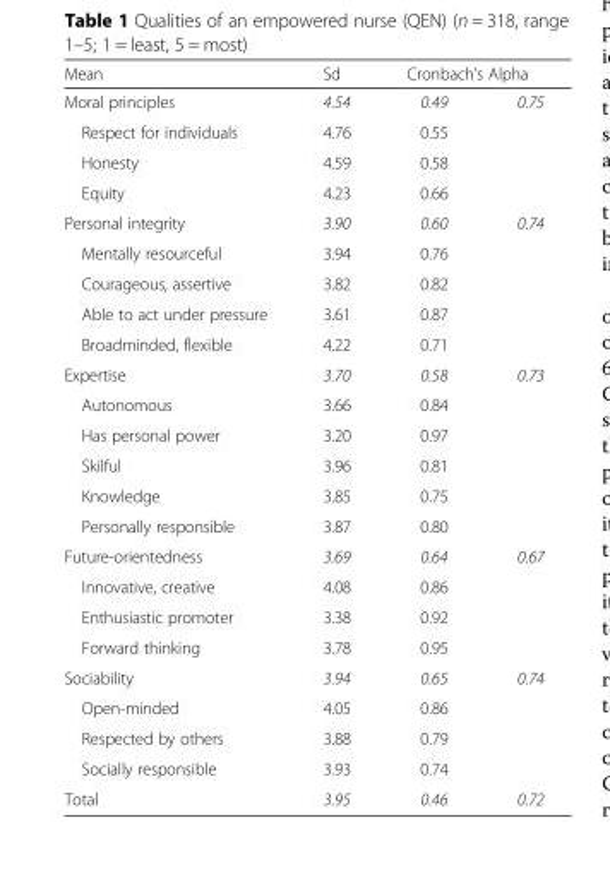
<table><thead><tr><td rowspan="2">Mean Moral principles</td><td rowspan="2">Sd 4.54</td><td colspan="2">Cronbach’s Alpha</td></tr><tr><td>0.49</td><td>0.75</td></tr></thead><tbody><tr><td>Respect for individuals</td><td>4.76</td><td>0.55</td><td></td></tr><tr><td>Honesty</td><td>4.59</td><td>0.58</td><td></td></tr><tr><td>Equity</td><td>4.23</td><td>0.66</td><td></td></tr><tr><td>Personal integrity</td><td>3.90</td><td>0.60</td><td>0.74</td></tr><tr><td>Mentally resourceful</td><td>3.94</td><td>0.76</td><td></td></tr><tr><td>Courageous, assertive</td><td>3.82</td><td>0.82</td><td></td></tr><tr><td>Able to act under pressure</td><td>3.61</td><td>0.87</td><td></td></tr><tr><td>Broadminded, flexible</td><td>4.22</td><td>0.71</td><td></td></tr><tr><td>Expertise</td><td>3.70</td><td>0.58</td><td>0.73</td></tr><tr><td>Autonomous</td><td>3.66</td><td>0.84</td><td></td></tr><tr><td>Has personal power</td><td>3.20</td><td>0.97</td><td></td></tr><tr><td>Skilful</td><td>3.96</td><td>0.81</td><td></td></tr><tr><td>Knowledge</td><td>3.85</td><td>0.75</td><td></td></tr><tr><td>Personally responsible</td><td>3.87</td><td>0.80</td><td></td></tr><tr><td>Future-orientedness</td><td>3.69</td><td>0.64</td><td>0.67</td></tr><tr><td>Innovative, creative</td><td>4.08</td><td>0.86</td><td></td></tr><tr><td>Enthusiastic promoter</td><td>3.38</td><td>0.92</td><td></td></tr><tr><td>Forward thinking</td><td>3.78</td><td>0.95</td><td></td></tr><tr><td>Sociability</td><td>3.94</td><td>0.65</td><td>0.74</td></tr><tr><td>Open-minded</td><td>4.05</td><td>0.86</td><td></td></tr><tr><td>Respected by others</td><td>3.88</td><td>0.79</td><td></td></tr><tr><td>Socially responsible</td><td>3.93</td><td>0.74</td><td></td></tr><tr><td>Total</td><td>3.95</td><td>0.46</td><td>0.72</td></tr></tbody></table>